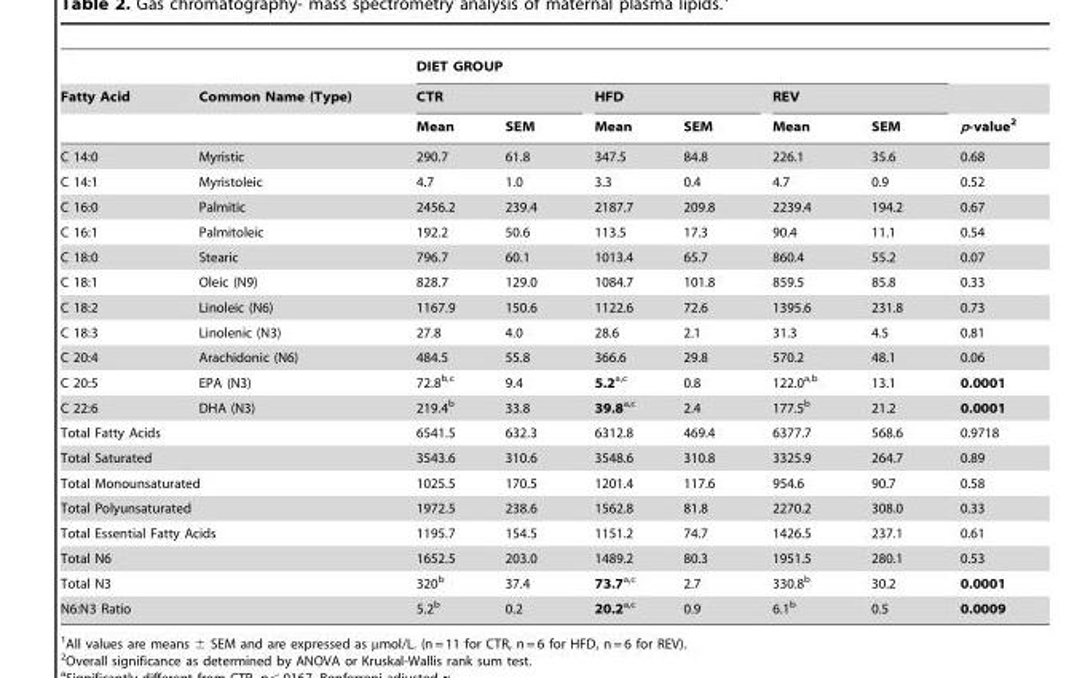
<table><thead><tr><td rowspan="3">Fatty Acid</td><td rowspan="3">Common Name (Type)</td><td colspan="6">DIET GROUP</td><td rowspan="3">p-value<sup>2</sup></td></tr><tr><td colspan="2">CTR</td><td colspan="2">HFD</td><td colspan="2">REV</td></tr><tr><td>Mean</td><td>SEM</td><td>Mean</td><td>SEM</td><td>Mean</td><td>SEM</td></tr></thead><tbody><tr><td>C 14:0</td><td>Myristic</td><td>290.7</td><td>61.8</td><td>347.5</td><td>84.8</td><td>226.1</td><td>35.6</td><td>0.68</td></tr><tr><td>C 14:1</td><td>Myristoleic</td><td>4.7</td><td>1.0</td><td>3.3</td><td>0.4</td><td>4.7</td><td>0.9</td><td>0.52</td></tr><tr><td>C 16:0</td><td>Palmitic</td><td>2456.2</td><td>239.4</td><td>2187.7</td><td>209.8</td><td>2239.4</td><td>194.2</td><td>0.67</td></tr><tr><td>C 16:1</td><td>Palmitoleic</td><td>192.2</td><td>50.6</td><td>113.5</td><td>17.3</td><td>90.4</td><td>11.1</td><td>0.54</td></tr><tr><td>C 18:0</td><td>Stearic</td><td>796.7</td><td>60.1</td><td>1013.4</td><td>65.7</td><td>860.4</td><td>55.2</td><td>0.07</td></tr><tr><td>C 18:1</td><td>Oleic (N9)</td><td>828.7</td><td>129.0</td><td>1084.7</td><td>101.8</td><td>859.5</td><td>85.8</td><td>0.33</td></tr><tr><td>C 18:2</td><td>Linoleic (N6)</td><td>1167.9</td><td>150.6</td><td>1122.6</td><td>72.6</td><td>1395.6</td><td>231.8</td><td>0.73</td></tr><tr><td>C 18:3</td><td>Linolenic (N3)</td><td>27.8</td><td>4.0</td><td>28.6</td><td>2.1</td><td>31.3</td><td>4.5</td><td>0.81</td></tr><tr><td>C 20:4</td><td>Arachidonic (N6)</td><td>484.5</td><td>55.8</td><td>366.6</td><td>29.8</td><td>570.2</td><td>48.1</td><td>0.06</td></tr><tr><td>C 20:5</td><td>EPA (N3)</td><td>72.8<sup>b,</sup>c</td><td>9.4</td><td>5.2a<sup>,</sup>c</td><td>0.8</td><td>122.0<sup>a,</sup>b</td><td>13.1</td><td>0.0001</td></tr><tr><td>C 22:6</td><td>DHA (N3)</td><td>219.4<sup>b</sup></td><td>33.8</td><td>39.8a<sup>,</sup>c</td><td>2.4</td><td>177.5<sup>b</sup></td><td>21.2</td><td>0.0001</td></tr><tr><td colspan="2">Total Fatty Acids</td><td>6541.5</td><td>632.3</td><td>6312.8</td><td>469.4</td><td>6377.7</td><td>568.6</td><td>0.9718</td></tr><tr><td colspan="2">Total Saturated</td><td>3543.6</td><td>310.6</td><td>3548.6</td><td>310.8</td><td>3325.9</td><td>264.7</td><td>0.89</td></tr><tr><td colspan="2">Total Monounsaturated</td><td>1025.5</td><td>170.5</td><td>1201.4</td><td>117.6</td><td>954.6</td><td>90.7</td><td>0.58</td></tr><tr><td colspan="2">Total Polyunsaturated</td><td>1972.5</td><td>238.6</td><td>1562.8</td><td>81.8</td><td>2270.2</td><td>308.0</td><td>0.33</td></tr><tr><td colspan="2">Total Essential Fatty Acids</td><td>1195.7</td><td>154.5</td><td>1151.2</td><td>74.7</td><td>1426.5</td><td>237.1</td><td>0.61</td></tr><tr><td colspan="2">Total N6</td><td>1652.5</td><td>203.0</td><td>1489.2</td><td>80.3</td><td>1951.5</td><td>280.1</td><td>0.53</td></tr><tr><td colspan="2">Total N3</td><td>320<sup>b</sup></td><td>37.4</td><td>73.7a<sup>,</sup>c</td><td>2.7</td><td>330.8<sup>b</sup></td><td>30.2</td><td>0.0001</td></tr><tr><td colspan="2">N6:N3 Ratio</td><td>5.2<sup>b</sup></td><td>0.2</td><td>20.2a<sup>,</sup>c</td><td>0.9</td><td>6.1<sup>b</sup></td><td>0.5</td><td>0.0009</td></tr></tbody></table>